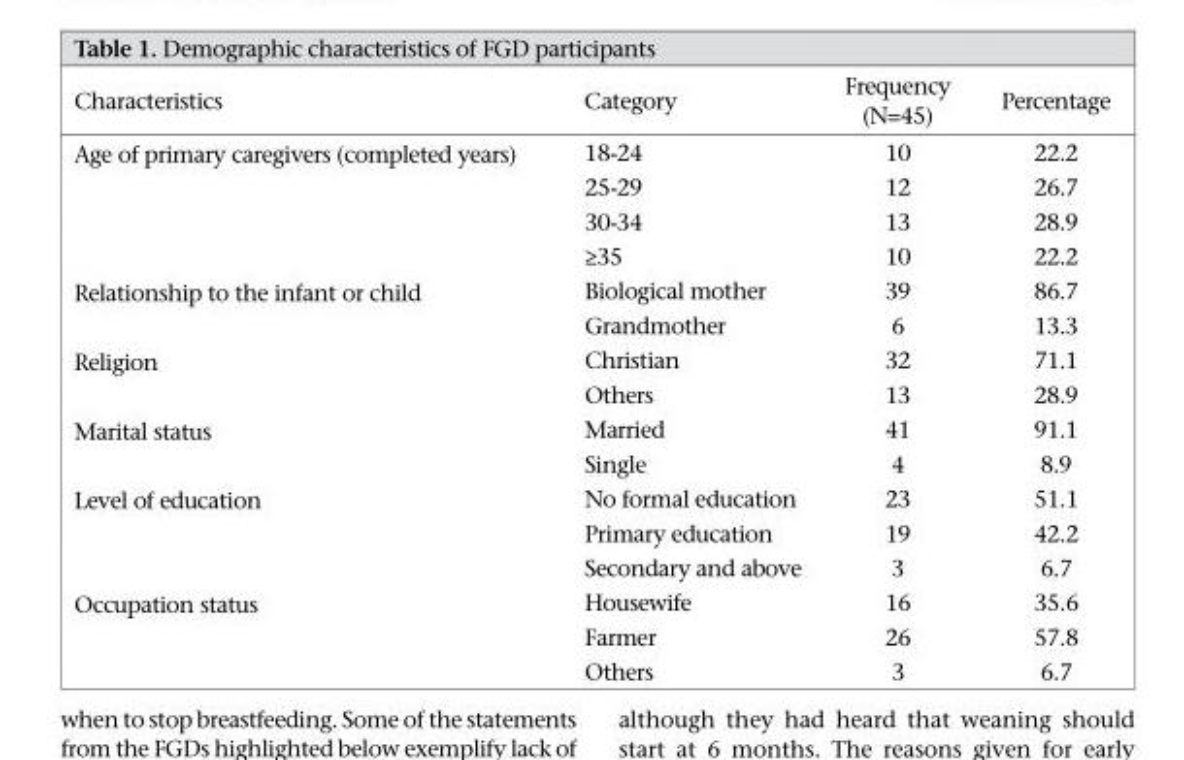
<table><thead><tr><td>Characteristics</td><td>Category</td><td>Frequency (N=45)</td><td>Percentage</td></tr></thead><tbody><tr><td rowspan="4">Age of primary caregivers (completed years)</td><td>18-24</td><td>10</td><td>22.2</td></tr><tr><td>25-29</td><td>12</td><td>26.7</td></tr><tr><td>30-34</td><td>13</td><td>28.9</td></tr><tr><td>≥35</td><td>10</td><td>22.2</td></tr><tr><td rowspan="2">Relationship to the infant or child</td><td>Biological mother</td><td>39</td><td>86.7</td></tr><tr><td>Grandmother</td><td>6</td><td>13.3</td></tr><tr><td rowspan="2">Religion</td><td>Christian</td><td>32</td><td>71.1</td></tr><tr><td>Others</td><td>13</td><td>28.9</td></tr><tr><td rowspan="2">Marital status</td><td>Married</td><td>41</td><td>91.1</td></tr><tr><td>Single</td><td>4</td><td>8.9</td></tr><tr><td rowspan="3">Level of education</td><td>No formal education</td><td>23</td><td>51.1</td></tr><tr><td>Primary education</td><td>19</td><td>42.2</td></tr><tr><td>Secondary and above</td><td>3</td><td>6.7</td></tr><tr><td rowspan="3">Occupation status</td><td>Housewife</td><td>16</td><td>35.6</td></tr><tr><td>Farmer</td><td>26</td><td>57.8</td></tr><tr><td>Others</td><td>3</td><td>6.7</td></tr></tbody></table>